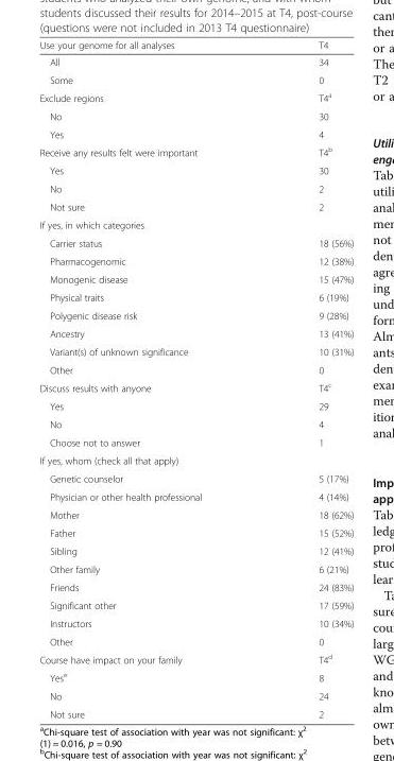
<table><thead><tr><td>Use your genome for all analyses</td><td>T4</td></tr></thead><tbody><tr><td>All</td><td>34</td></tr><tr><td>Some</td><td>0</td></tr><tr><td>Exclude regions</td><td>T4<sup>a</sup></td></tr><tr><td>No</td><td>30</td></tr><tr><td>Yes</td><td>4</td></tr><tr><td>Receive any results felt were important</td><td>T4<sup>b</sup></td></tr><tr><td>Yes</td><td>30</td></tr><tr><td>No</td><td>2</td></tr><tr><td>Not sure</td><td>2</td></tr><tr><td colspan="2">If yes, in which categories</td></tr><tr><td>Carrier status</td><td>18 (56%)</td></tr><tr><td>Pharmacogenomic</td><td>12 (38%)</td></tr><tr><td>Monogenic disease</td><td>15 (47%)</td></tr><tr><td>Physical traits</td><td>6 (19%)</td></tr><tr><td>Polygenic disease risk</td><td>9 (28%)</td></tr><tr><td>Ancestry</td><td>13 (41%)</td></tr><tr><td>Variant(s) of unknown significance</td><td>10 (31%)</td></tr><tr><td>Other</td><td>0</td></tr><tr><td>Discuss results with anyone</td><td>T4<sup>c</sup></td></tr><tr><td>Yes</td><td>29</td></tr><tr><td>No</td><td>4</td></tr><tr><td>Choose not to answer</td><td>1</td></tr><tr><td colspan="2">If yes, whom (check all that apply)</td></tr><tr><td>Genetic counselor</td><td>5 (17%)</td></tr><tr><td>Physician or other health professional</td><td>4 (14%)</td></tr><tr><td>Mother</td><td>18 (62%)</td></tr><tr><td>Father</td><td>15 (52%)</td></tr><tr><td>Sibling</td><td>12 (41%)</td></tr><tr><td>Other family</td><td>6 (21%)</td></tr><tr><td>Friends</td><td>24 (83%)</td></tr><tr><td>Significant other</td><td>17 (59%)</td></tr><tr><td>Instructors</td><td>10 (34%)</td></tr><tr><td>Other</td><td>0</td></tr><tr><td>Course have impact on your family</td><td>T4<sup>d</sup></td></tr><tr><td>Yes<sup>e</sup></td><td>8</td></tr><tr><td>No</td><td>24</td></tr><tr><td>Not sure</td><td>2</td></tr></tbody></table>